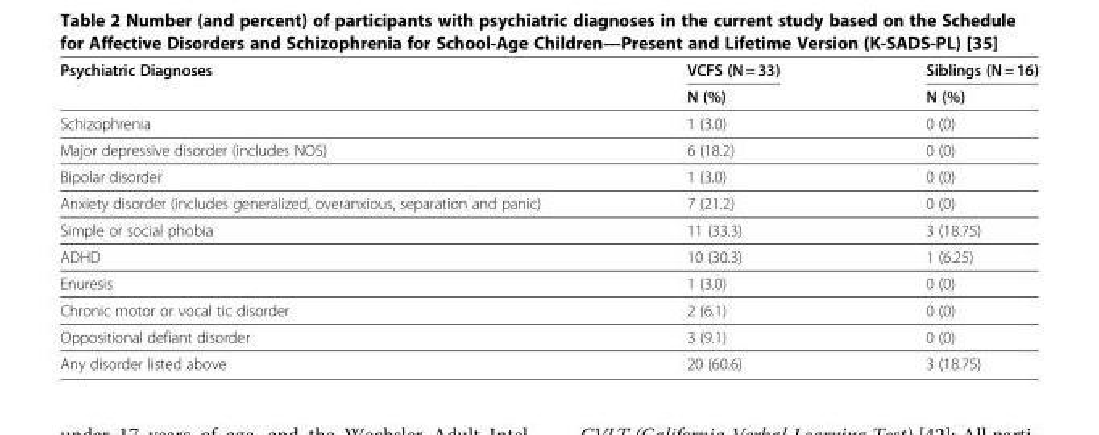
<table><thead><tr><td rowspan="2">Psychiatric Diagnoses</td><td rowspan="2">VCFS (N = 33) N (%)</td><td rowspan="2">Siblings (N = 16) N (%)</td></tr><tr></tr></thead><tbody><tr><td>Schizophrenia</td><td>1 (3.0)</td><td>0 (0)</td></tr><tr><td>Major depressive disorder (includes NOS)</td><td>6 (18.2)</td><td>0 (0)</td></tr><tr><td>Bipolar disorder</td><td>1 (3.0)</td><td>0 (0)</td></tr><tr><td>Anxiety disorder (includes generalized, overanxious, separation and panic)</td><td>7 (21.2)</td><td>0 (0)</td></tr><tr><td>Simple or social phobia</td><td>11 (33.3)</td><td>3 (18.75)</td></tr><tr><td>ADHD</td><td>10 (30.3)</td><td>1 (6.25)</td></tr><tr><td>Enuresis</td><td>1 (3.0)</td><td>0 (0)</td></tr><tr><td>Chronic motor or vocal tic disorder</td><td>2 (6.1)</td><td>0 (0)</td></tr><tr><td>Oppositional defiant disorder</td><td>3 (9.1)</td><td>0 (0)</td></tr><tr><td>Any disorder listed above</td><td>20 (60.6)</td><td>3 (18.75)</td></tr></tbody></table>